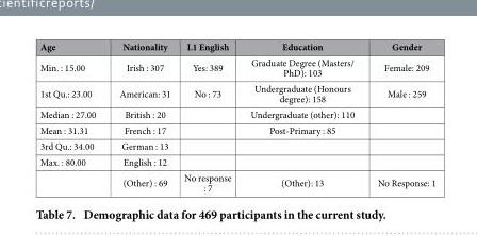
<table><thead><tr><td>Age</td><td>Nationality</td><td>L1 English</td><td>Education</td><td>Gender</td></tr></thead><tbody><tr><td>Min. : 15.00</td><td>Irish : 307</td><td>Yes: 389</td><td>Graduate Degree (Masters/ PhD): 103</td><td>Female: 209</td></tr><tr><td>1st Qu.: 23.00</td><td>American: 31</td><td>No : 73</td><td>Undergraduate (Honours degree): 158</td><td>Male : 259</td></tr><tr><td>Median : 27.00</td><td>British : 20</td><td></td><td>Undergraduate (other): 110</td><td></td></tr><tr><td>Mean : 31.31</td><td>French : 17</td><td></td><td>Post-Primary : 85</td><td></td></tr><tr><td>3rd Qu.: 34.00</td><td>German : 13</td><td></td><td></td><td></td></tr><tr><td rowspan="2">Max. : 80.00</td><td>English : 12</td><td></td><td></td><td></td></tr><tr><td>(Other) : 69</td><td>No response : 7</td><td>(Other): 13</td><td>No Response: 1</td></tr></tbody></table>